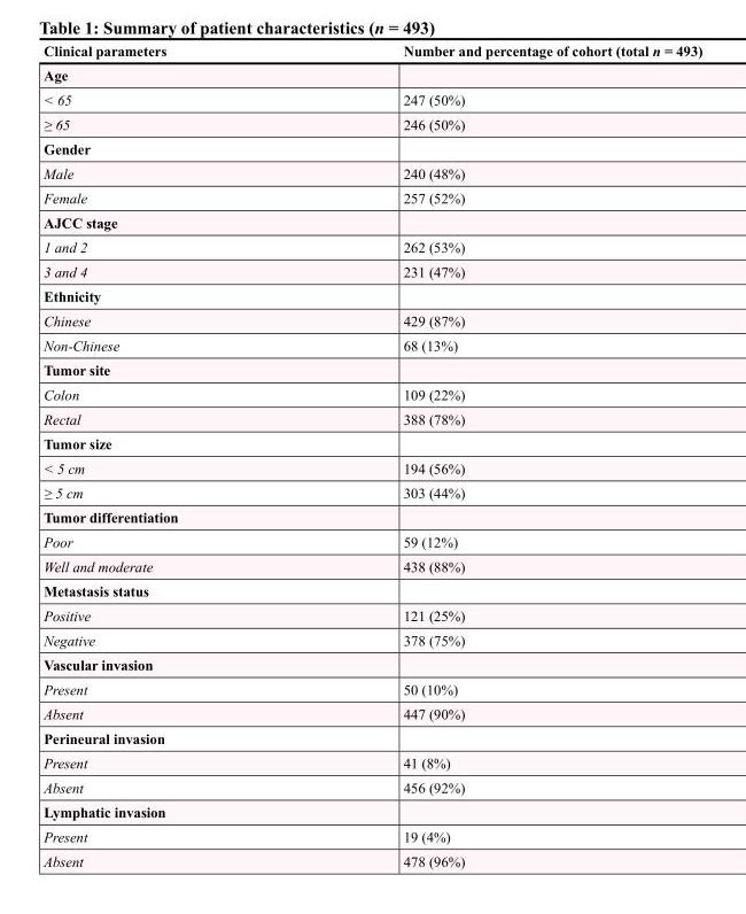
<table><thead><tr><td>Clinical parameters</td><td>Number and percentage of cohort (total n = 493)</td></tr></thead><tbody><tr><td colspan="2">Age</td></tr><tr><td>&lt; 65</td><td>247 (50%)</td></tr><tr><td>≥ 65</td><td>246 (50%)</td></tr><tr><td colspan="2">Gender</td></tr><tr><td>Male</td><td>240 (48%)</td></tr><tr><td>Female</td><td>257 (52%)</td></tr><tr><td colspan="2">AJCC stage</td></tr><tr><td>1 and 2</td><td>262 (53%)</td></tr><tr><td>3 and 4</td><td>231 (47%)</td></tr><tr><td colspan="2">Ethnicity</td></tr><tr><td>Chinese</td><td>429 (87%)</td></tr><tr><td>Non-Chinese</td><td>68 (13%)</td></tr><tr><td colspan="2">Tumor site</td></tr><tr><td>Colon</td><td>109 (22%)</td></tr><tr><td>Rectal</td><td>388 (78%)</td></tr><tr><td colspan="2">Tumor size</td></tr><tr><td>&lt; 5 cm</td><td>194 (56%)</td></tr><tr><td>≥ 5 cm</td><td>303 (44%)</td></tr><tr><td colspan="2">Tumor differentiation</td></tr><tr><td>Poor</td><td>59 (12%)</td></tr><tr><td>Well and moderate</td><td>438 (88%)</td></tr><tr><td colspan="2">Metastasis status</td></tr><tr><td>Positive</td><td>121 (25%)</td></tr><tr><td>Negative</td><td>378 (75%)</td></tr><tr><td colspan="2">Vascular invasion</td></tr><tr><td>Present</td><td>50 (10%)</td></tr><tr><td>Absent</td><td>447 (90%)</td></tr><tr><td colspan="2">Perineural invasion</td></tr><tr><td>Present</td><td>41 (8%)</td></tr><tr><td>Absent</td><td>456 (92%)</td></tr><tr><td colspan="2">Lymphatic invasion</td></tr><tr><td>Present</td><td>19 (4%)</td></tr><tr><td>Absent</td><td>478 (96%)</td></tr></tbody></table>